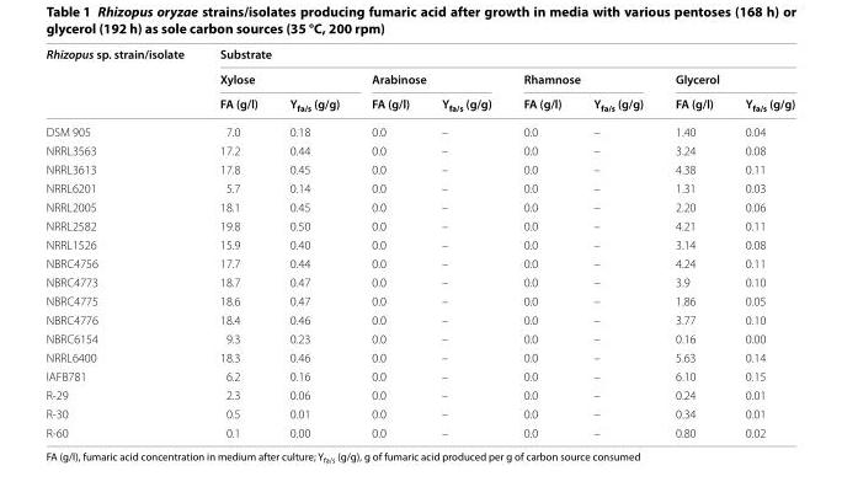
<table><thead><tr><td rowspan="3">Rhizopus sp. strain/isolate</td><td colspan="8">Substrate</td></tr><tr><td colspan="2">Xylose</td><td colspan="2">Arabinose</td><td colspan="2">Rhamnose</td><td colspan="2">Glycerol</td></tr><tr><td>FA (g/l)</td><td>Y<sub>fa/s</sub> (g/g)</td><td>FA (g/l)</td><td>Y<sub>fa/s</sub> (g/g)</td><td>FA (g/l)</td><td>Y<sub>fa/s</sub> (g/g)</td><td>FA (g/l)</td><td>Y<sub>fa/s</sub> (g/g)</td></tr></thead><tbody><tr><td>DSM 905</td><td>7.0</td><td>0.18</td><td>0.0</td><td>–</td><td>0.0</td><td>–</td><td>1.40</td><td>0.04</td></tr><tr><td>NRRL3563</td><td>17.2</td><td>0.44</td><td>0.0</td><td>–</td><td>0.0</td><td>–</td><td>3.24</td><td>0.08</td></tr><tr><td>NRRL3613</td><td>17.8</td><td>0.45</td><td>0.0</td><td>–</td><td>0.0</td><td>–</td><td>4.38</td><td>0.11</td></tr><tr><td>NRRL6201</td><td>5.7</td><td>0.14</td><td>0.0</td><td>–</td><td>0.0</td><td>–</td><td>1.31</td><td>0.03</td></tr><tr><td>NRRL2005</td><td>18.1</td><td>0.45</td><td>0.0</td><td>–</td><td>0.0</td><td>–</td><td>2.20</td><td>0.06</td></tr><tr><td>NRRL2582</td><td>19.8</td><td>0.50</td><td>0.0</td><td>–</td><td>0.0</td><td>–</td><td>4.21</td><td>0.11</td></tr><tr><td>NRRL1526</td><td>15.9</td><td>0.40</td><td>0.0</td><td>–</td><td>0.0</td><td>–</td><td>3.14</td><td>0.08</td></tr><tr><td>NBRC4756</td><td>17.7</td><td>0.44</td><td>0.0</td><td>–</td><td>0.0</td><td>–</td><td>4.24</td><td>0.11</td></tr><tr><td>NBRC4773</td><td>18.7</td><td>0.47</td><td>0.0</td><td>–</td><td>0.0</td><td>–</td><td>3.9</td><td>0.10</td></tr><tr><td>NBRC4775</td><td>18.6</td><td>0.47</td><td>0.0</td><td>–</td><td>0.0</td><td>–</td><td>1.86</td><td>0.05</td></tr><tr><td>NBRC4776</td><td>18.4</td><td>0.46</td><td>0.0</td><td>–</td><td>0.0</td><td>–</td><td>3.77</td><td>0.10</td></tr><tr><td>NBRC6154</td><td>9.3</td><td>0.23</td><td>0.0</td><td>–</td><td>0.0</td><td>–</td><td>0.16</td><td>0.00</td></tr><tr><td>NRRL6400</td><td>18.3</td><td>0.46</td><td>0.0</td><td>–</td><td>0.0</td><td>–</td><td>5.63</td><td>0.14</td></tr><tr><td>IAFB781</td><td>6.2</td><td>0.16</td><td>0.0</td><td>–</td><td>0.0</td><td>–</td><td>6.10</td><td>0.15</td></tr><tr><td>R‑29</td><td>2.3</td><td>0.06</td><td>0.0</td><td>–</td><td>0.0</td><td>–</td><td>0.24</td><td>0.01</td></tr><tr><td>R‑30</td><td>0.5</td><td>0.01</td><td>0.0</td><td>–</td><td>0.0</td><td>–</td><td>0.34</td><td>0.01</td></tr><tr><td>R‑60</td><td>0.1</td><td>0.00</td><td>0.0</td><td>–</td><td>0.0</td><td>–</td><td>0.80</td><td>0.02</td></tr></tbody></table>